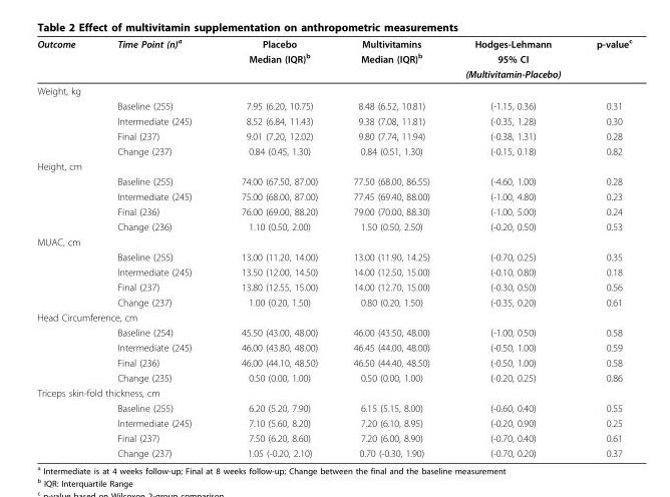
<table><thead><tr><td rowspan="3">Outcome</td><td rowspan="3">Time Point (n)<sup>a</sup></td><td rowspan="3">Placebo Median (IQR)<sup>b</sup></td><td rowspan="3">Multivitamins Median (IQR)<sup>b</sup></td><td rowspan="3">Hodges-Lehmann 95% CI (Multivitamin-Placebo)</td><td rowspan="3">p-value<sup>c</sup></td></tr><tr></tr><tr></tr></thead><tbody><tr><td colspan="6">Weight, kg</td></tr><tr><td></td><td>Baseline (255)</td><td>7.95 (6.20, 10.75)</td><td>8.48 (6.52, 10.81)</td><td>(-1.15, 0.36)</td><td>0.31</td></tr><tr><td></td><td>Intermediate (245)</td><td>8.52 (6.84, 11.43)</td><td>9.38 (7.08, 11.81)</td><td>(-0.35, 1.28)</td><td>0.30</td></tr><tr><td></td><td>Final (237)</td><td>9.01 (7.20, 12.02)</td><td>9.80 (7.74, 11.94)</td><td>(-0.38, 1.31)</td><td>0.28</td></tr><tr><td></td><td>Change (237)</td><td>0.84 (0.45, 1.30)</td><td>0.84 (0.51, 1.30)</td><td>(-0.15, 0.18)</td><td>0.82</td></tr><tr><td colspan="6">Height, cm</td></tr><tr><td></td><td>Baseline (255)</td><td>74.00 (67.50, 87.00)</td><td>77.50 (68.00, 86.55)</td><td>(-4.60, 1.00)</td><td>0.28</td></tr><tr><td></td><td>Intermediate (245)</td><td>75.00 (68.00, 87.00)</td><td>77.45 (69.40, 88.00)</td><td>(-1.00, 4.80)</td><td>0.23</td></tr><tr><td></td><td>Final (236)</td><td>76.00 (69.00, 88.20)</td><td>79.00 (70.00, 88.30)</td><td>(-1.00, 5.00)</td><td>0.24</td></tr><tr><td></td><td>Change (236)</td><td>1.10 (0.50, 2.00)</td><td>1.50 (0.50, 2.50)</td><td>(-0.20, 0.50)</td><td>0.53</td></tr><tr><td colspan="6">MUAC, cm</td></tr><tr><td></td><td>Baseline (255)</td><td>13.00 (11.20, 14.00)</td><td>13.00 (11.90, 14.25)</td><td>(-0.70, 0.25)</td><td>0.35</td></tr><tr><td></td><td>Intermediate (245)</td><td>13.50 (12.00, 14.50)</td><td>14.00 (12.50, 15.00)</td><td>(-0.10, 0.80)</td><td>0.18</td></tr><tr><td></td><td>Final (237)</td><td>13.80 (12.55, 15.00)</td><td>14.00 (12.70, 15.00)</td><td>(-0.30, 0.50)</td><td>0.56</td></tr><tr><td></td><td>Change (237)</td><td>1.00 (0.20, 1.50)</td><td>0.80 (0.20, 1.50)</td><td>(-0.35, 0.20)</td><td>0.61</td></tr><tr><td colspan="6">Head Circumference, cm</td></tr><tr><td></td><td>Baseline (254)</td><td>45.50 (43.00, 48.00)</td><td>46.00 (43.50, 48.00)</td><td>(-1.00, 0.50)</td><td>0.58</td></tr><tr><td></td><td>Intermediate (245)</td><td>46.00 (43.80, 48.00)</td><td>46.45 (44.00, 48.00)</td><td>(-0.50, 1.00)</td><td>0.59</td></tr><tr><td></td><td>Final (236)</td><td>46.00 (44.10, 48.50)</td><td>46.50 (44.40, 48.50)</td><td>(-0.50, 1.00)</td><td>0.58</td></tr><tr><td></td><td>Change (235)</td><td>0.50 (0.00, 1.00)</td><td>0.50 (0.00, 1.00)</td><td>(-0.20, 0.25)</td><td>0.86</td></tr><tr><td colspan="6">Triceps skin-fold thickness, cm</td></tr><tr><td></td><td>Baseline (255)</td><td>6.20 (5.20, 7.90)</td><td>6.15 (5.15, 8.00)</td><td>(-0.60, 0.40)</td><td>0.55</td></tr><tr><td></td><td>Intermediate (245)</td><td>7.10 (5.60, 8.20)</td><td>7.20 (6.10, 8.95)</td><td>(-0.20, 0.90)</td><td>0.25</td></tr><tr><td></td><td>Final (237)</td><td>7.50 (6.20, 8.60)</td><td>7.20 (6.00, 8.90)</td><td>(-0.70, 0.40)</td><td>0.61</td></tr><tr><td></td><td>Change (237)</td><td>1.05 (-0.20, 2.10)</td><td>0.70 (-0.30, 1.90)</td><td>(-0.70, 0.20)</td><td>0.37</td></tr></tbody></table>